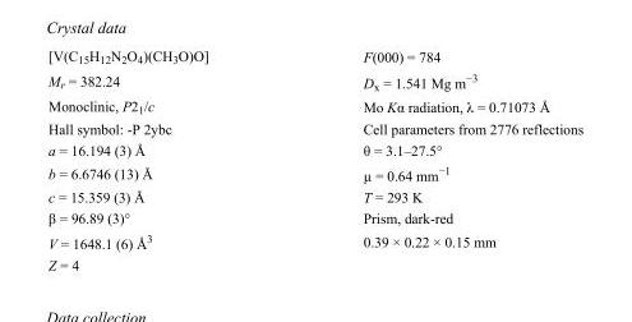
<table><tbody><tr><td>[V(C<sub>15</sub>H<sub>12</sub>N<sub>2</sub>O<sub>4</sub>)(CH<sub>3</sub>O)O]</td><td>F(000) = 784</td></tr><tr><td>M<sub>r</sub> = 382.24</td><td>D<sub>x</sub> = 1.541 Mg m<sup>−3</sup></td></tr><tr><td>Monoclinic, P2<sub>1</sub>/c</td><td>Mo Kα radiation, λ = 0.71073 Å</td></tr><tr><td>Hall symbol: -P 2ybc</td><td>Cell parameters from 2776 reflections</td></tr><tr><td>a = 16.194 (3) Å</td><td>θ = 3.1–27.5°</td></tr><tr><td>b = 6.6746 (13) Å</td><td>µ = 0.64 mm<sup>−1</sup></td></tr><tr><td>c = 15.359 (3) Å</td><td>T = 293 K</td></tr><tr><td>β = 96.89 (3)°</td><td>Prism, dark-red</td></tr><tr><td>V = 1648.1 (6) Å<sup>3</sup></td><td>0.39 × 0.22 × 0.15 mm</td></tr><tr><td>Z = 4</td><td></td></tr></tbody></table>